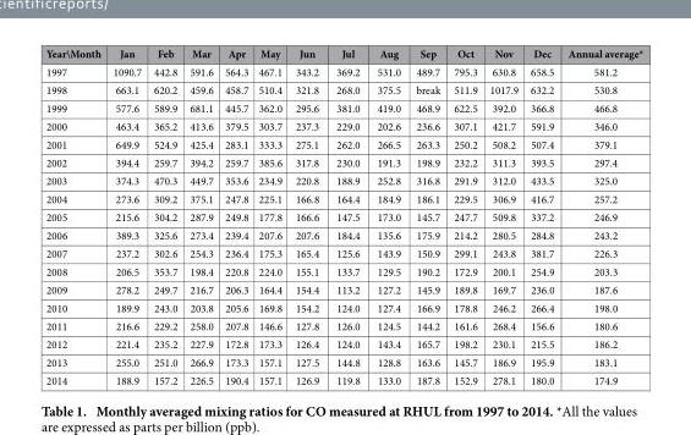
<table><thead><tr><td>Year\Month</td><td>Jan</td><td>Feb</td><td>Mar</td><td>Apr</td><td>May</td><td>Jun</td><td>Jul</td><td>Aug</td><td>Sep</td><td>Oct</td><td>Nov</td><td>Dec</td><td>Annual average*</td></tr></thead><tbody><tr><td>1997</td><td>1090.7</td><td>442.8</td><td>591.6</td><td>564.3</td><td>467.1</td><td>343.2</td><td>369.2</td><td>531.0</td><td>489.7</td><td>795.3</td><td>630.8</td><td>658.5</td><td>581.2</td></tr><tr><td>1998</td><td>663.1</td><td>620.2</td><td>459.6</td><td>458.7</td><td>510.4</td><td>321.8</td><td>268.0</td><td>375.5</td><td>break</td><td>511.9</td><td>1017.9</td><td>632.2</td><td>530.8</td></tr><tr><td>1999</td><td>577.6</td><td>589.9</td><td>681.1</td><td>445.7</td><td>362.0</td><td>295.6</td><td>381.0</td><td>419.0</td><td>468.9</td><td>622.5</td><td>392.0</td><td>366.8</td><td>466.8</td></tr><tr><td>2000</td><td>463.4</td><td>365.2</td><td>413.6</td><td>379.5</td><td>303.7</td><td>237.3</td><td>229.0</td><td>202.6</td><td>236.6</td><td>307.1</td><td>421.7</td><td>591.9</td><td>346.0</td></tr><tr><td>2001</td><td>649.9</td><td>524.9</td><td>425.4</td><td>283.1</td><td>333.3</td><td>275.1</td><td>262.0</td><td>266.5</td><td>263.3</td><td>250.2</td><td>508.2</td><td>507.4</td><td>379.1</td></tr><tr><td>2002</td><td>394.4</td><td>259.7</td><td>394.2</td><td>259.7</td><td>385.6</td><td>317.8</td><td>230.0</td><td>191.3</td><td>198.9</td><td>232.2</td><td>311.3</td><td>393.5</td><td>297.4</td></tr><tr><td>2003</td><td>374.3</td><td>470.3</td><td>449.7</td><td>353.6</td><td>234.9</td><td>220.8</td><td>188.9</td><td>252.8</td><td>316.8</td><td>291.9</td><td>312.0</td><td>433.5</td><td>325.0</td></tr><tr><td>2004</td><td>273.6</td><td>309.2</td><td>375.1</td><td>247.8</td><td>225.1</td><td>166.8</td><td>164.4</td><td>184.9</td><td>186.1</td><td>229.5</td><td>306.9</td><td>416.7</td><td>257.2</td></tr><tr><td>2005</td><td>215.6</td><td>304.2</td><td>287.9</td><td>249.8</td><td>177.8</td><td>166.6</td><td>147.5</td><td>173.0</td><td>145.7</td><td>247.7</td><td>509.8</td><td>337.2</td><td>246.9</td></tr><tr><td>2006</td><td>389.3</td><td>325.6</td><td>273.4</td><td>239.4</td><td>207.6</td><td>207.6</td><td>184.4</td><td>135.6</td><td>175.9</td><td>214.2</td><td>280.5</td><td>284.8</td><td>243.2</td></tr><tr><td>2007</td><td>237.2</td><td>302.6</td><td>254.3</td><td>236.4</td><td>175.3</td><td>165.4</td><td>125.6</td><td>143.9</td><td>150.9</td><td>299.1</td><td>243.8</td><td>381.7</td><td>226.3</td></tr><tr><td>2008</td><td>206.5</td><td>353.7</td><td>198.4</td><td>220.8</td><td>224.0</td><td>155.1</td><td>133.7</td><td>129.5</td><td>190.2</td><td>172.9</td><td>200.1</td><td>254.9</td><td>203.3</td></tr><tr><td>2009</td><td>278.2</td><td>249.7</td><td>216.7</td><td>206.3</td><td>164.4</td><td>154.4</td><td>113.2</td><td>127.2</td><td>145.9</td><td>189.8</td><td>169.7</td><td>236.0</td><td>187.6</td></tr><tr><td>2010</td><td>189.9</td><td>243.0</td><td>203.8</td><td>205.6</td><td>169.8</td><td>154.2</td><td>124.0</td><td>127.4</td><td>166.9</td><td>178.8</td><td>246.2</td><td>266.4</td><td>198.0</td></tr><tr><td>2011</td><td>216.6</td><td>229.2</td><td>258.0</td><td>207.8</td><td>146.6</td><td>127.8</td><td>126.0</td><td>124.5</td><td>144.2</td><td>161.6</td><td>268.4</td><td>156.6</td><td>180.6</td></tr><tr><td>2012</td><td>221.4</td><td>235.2</td><td>227.9</td><td>172.8</td><td>173.3</td><td>126.4</td><td>124.0</td><td>143.4</td><td>165.7</td><td>198.2</td><td>230.1</td><td>215.5</td><td>186.2</td></tr><tr><td>2013</td><td>255.0</td><td>251.0</td><td>266.9</td><td>173.3</td><td>157.1</td><td>127.5</td><td>144.8</td><td>128.8</td><td>163.6</td><td>145.7</td><td>186.9</td><td>195.9</td><td>183.1</td></tr><tr><td>2014</td><td>188.9</td><td>157.2</td><td>226.5</td><td>190.4</td><td>157.1</td><td>126.9</td><td>119.8</td><td>133.0</td><td>187.8</td><td>152.9</td><td>278.1</td><td>180.0</td><td>174.9</td></tr></tbody></table>